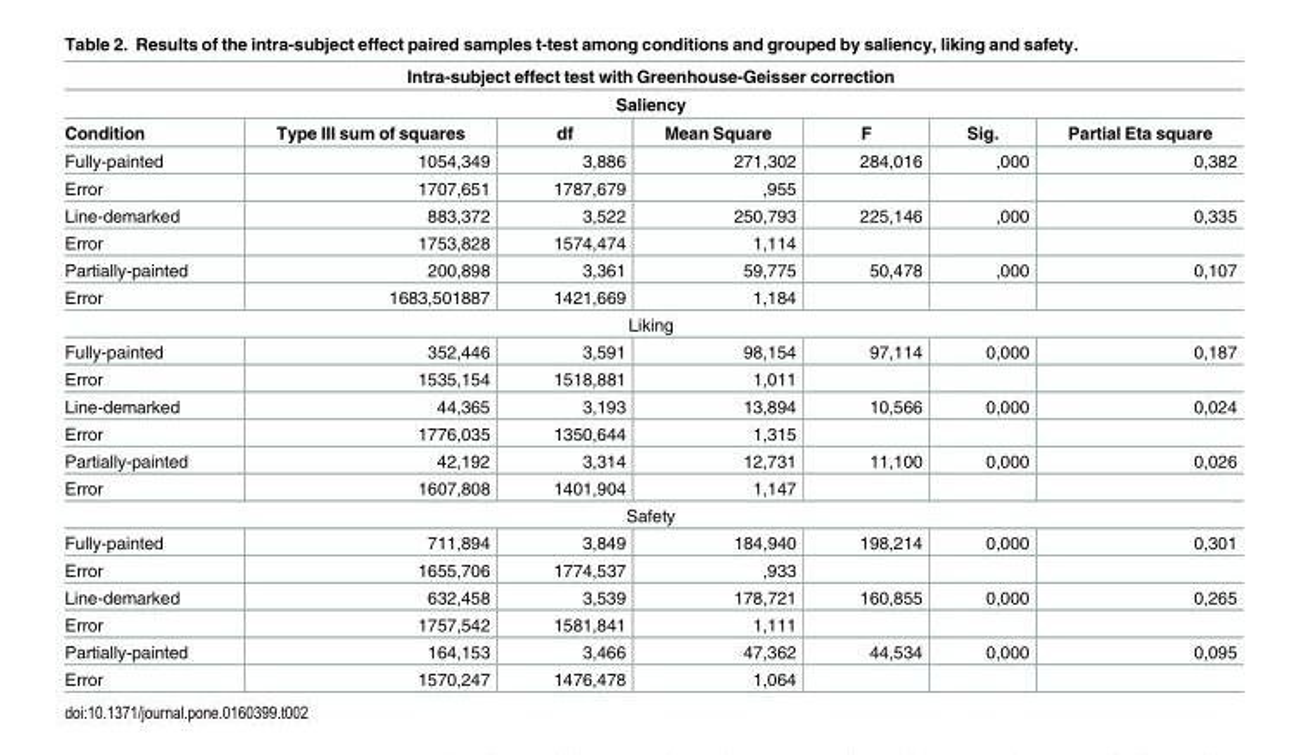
<table><thead><tr><td rowspan="2" colspan="7">Intra-subject effect test with Greenhouse-Geisser correction Saliency</td></tr><tr></tr><tr><td>Condition</td><td>Type III sum of squares</td><td>df</td><td>Mean Square</td><td>F</td><td>Sig.</td><td>Partial Eta square</td></tr></thead><tbody><tr><td>Fully-painted</td><td>1054,349</td><td>3,886</td><td>271,302</td><td>284,016</td><td>,000</td><td>0,382</td></tr><tr><td>Error</td><td>1707,651</td><td>1787,679</td><td>,955</td><td></td><td></td><td></td></tr><tr><td>Line-demarked</td><td>883,372</td><td>3,522</td><td>250,793</td><td>225,146</td><td>,000</td><td>0,335</td></tr><tr><td>Error</td><td>1753,828</td><td>1574,474</td><td>1,114</td><td></td><td></td><td></td></tr><tr><td>Partially-painted</td><td>200,898</td><td>3,361</td><td>59,775</td><td>50,478</td><td>,000</td><td>0,107</td></tr><tr><td>Error</td><td>1683,501887</td><td>1421,669</td><td>1,184</td><td></td><td></td><td></td></tr><tr><td colspan="7">Liking</td></tr><tr><td>Fully-painted</td><td>352,446</td><td>3,591</td><td>98,154</td><td>97,114</td><td>0,000</td><td>0,187</td></tr><tr><td>Error</td><td>1535,154</td><td>1518,881</td><td>1,011</td><td></td><td></td><td></td></tr><tr><td>Line-demarked</td><td>44,365</td><td>3,193</td><td>13,894</td><td>10,566</td><td>0,000</td><td>0,024</td></tr><tr><td>Error</td><td>1776,035</td><td>1350,644</td><td>1,315</td><td></td><td></td><td></td></tr><tr><td>Partially-painted</td><td>42,192</td><td>3,314</td><td>12,731</td><td>11,100</td><td>0,000</td><td>0,026</td></tr><tr><td>Error</td><td>1607,808</td><td>1401,904</td><td>1,147</td><td></td><td></td><td></td></tr><tr><td colspan="7">Safety</td></tr><tr><td>Fully-painted</td><td>711,894</td><td>3,849</td><td>184,940</td><td>198,214</td><td>0,000</td><td>0,301</td></tr><tr><td>Error</td><td>1655,706</td><td>1774,537</td><td>,933</td><td></td><td></td><td></td></tr><tr><td>Line-demarked</td><td>632,458</td><td>3,539</td><td>178,721</td><td>160,855</td><td>0,000</td><td>0,265</td></tr><tr><td>Error</td><td>1757,542</td><td>1581,841</td><td>1,111</td><td></td><td></td><td></td></tr><tr><td>Partially-painted</td><td>164,153</td><td>3,466</td><td>47,362</td><td>44,534</td><td>0,000</td><td>0,095</td></tr><tr><td>Error</td><td>1570,247</td><td>1476,478</td><td>1,064</td><td></td><td></td><td></td></tr></tbody></table>